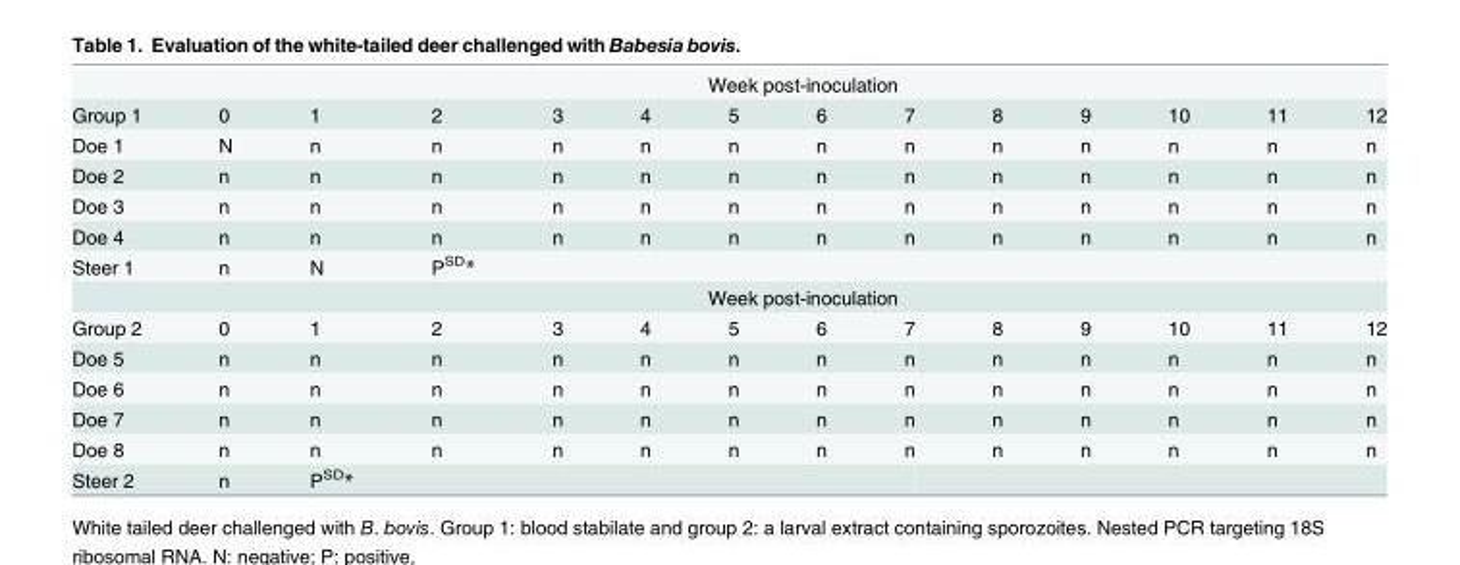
<table><thead><tr><td rowspan="2">Group 1</td><td colspan="13">Week post-inoculation</td></tr><tr><td>0</td><td>1</td><td>2</td><td>3</td><td>4</td><td>5</td><td>6</td><td>7</td><td>8</td><td>9</td><td>10</td><td>11</td><td>12</td></tr></thead><tbody><tr><td>Doe 1</td><td>N</td><td>n</td><td>n</td><td>n</td><td>n</td><td>n</td><td>n</td><td>n</td><td>n</td><td>n</td><td>n</td><td>n</td><td>n</td></tr><tr><td>Doe 2</td><td>n</td><td>n</td><td>n</td><td>n</td><td>n</td><td>n</td><td>n</td><td>n</td><td>n</td><td>n</td><td>n</td><td>n</td><td>n</td></tr><tr><td>Doe 3</td><td>n</td><td>n</td><td>n</td><td>n</td><td>n</td><td>n</td><td>n</td><td>n</td><td>n</td><td>n</td><td>n</td><td>n</td><td>n</td></tr><tr><td>Doe 4</td><td>n</td><td>n</td><td>n</td><td>n</td><td>n</td><td>n</td><td>n</td><td>n</td><td>n</td><td>n</td><td>n</td><td>n</td><td>n</td></tr><tr><td rowspan="2">Steer 1</td><td>n</td><td>N</td><td>P<sup>SD</sup>*</td><td></td><td></td><td></td><td></td><td></td><td></td><td></td><td></td><td></td><td></td></tr><tr><td colspan="13">Week post-inoculation</td></tr><tr><td>Group 2</td><td>0</td><td>1</td><td>2</td><td>3</td><td>4</td><td>5</td><td>6</td><td>7</td><td>8</td><td>9</td><td>10</td><td>11</td><td>12</td></tr><tr><td>Doe 5</td><td>n</td><td>n</td><td>n</td><td>n</td><td>n</td><td>n</td><td>n</td><td>n</td><td>n</td><td>n</td><td>n</td><td>n</td><td>n</td></tr><tr><td>Doe 6</td><td>n</td><td>n</td><td>n</td><td>n</td><td>n</td><td>n</td><td>n</td><td>n</td><td>n</td><td>n</td><td>n</td><td>n</td><td>n</td></tr><tr><td>Doe 7</td><td>n</td><td>n</td><td>n</td><td>n</td><td>n</td><td>n</td><td>n</td><td>n</td><td>n</td><td>n</td><td>n</td><td>n</td><td>n</td></tr><tr><td>Doe 8</td><td>n</td><td>n</td><td>n</td><td>n</td><td>n</td><td>n</td><td>n</td><td>n</td><td>n</td><td>n</td><td>n</td><td>n</td><td>n</td></tr><tr><td>Steer 2</td><td>n</td><td>P<sup>SD</sup>*</td><td></td><td></td><td></td><td></td><td></td><td></td><td></td><td></td><td></td><td></td><td></td></tr></tbody></table>